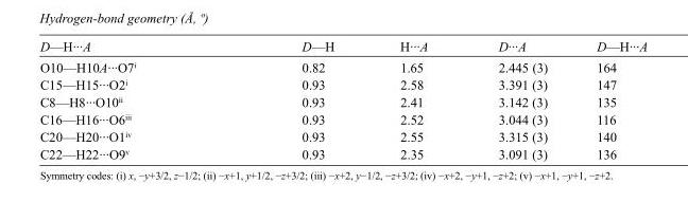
<table><tbody><tr><td>D—H···A</td><td>D—H</td><td>H···A</td><td>D···A</td><td>D—H···A</td></tr><tr><td>O10—H10A···O7<sup>i</sup></td><td>0.82</td><td>1.65</td><td>2.445 (3)</td><td>164</td></tr><tr><td>C15—H15···O2<sup>i</sup></td><td>0.93</td><td>2.58</td><td>3.391 (3)</td><td>147</td></tr><tr><td>C8—H8···O10<sup>ii</sup></td><td>0.93</td><td>2.41</td><td>3.142 (3)</td><td>135</td></tr><tr><td>C16—H16···O6<sup>iii</sup></td><td>0.93</td><td>2.52</td><td>3.044 (3)</td><td>116</td></tr><tr><td>C20—H20···O1<sup>iv</sup></td><td>0.93</td><td>2.55</td><td>3.315 (3)</td><td>140</td></tr><tr><td>C22—H22···O9<sup>v</sup></td><td>0.93</td><td>2.35</td><td>3.091 (3)</td><td>136</td></tr></tbody></table>